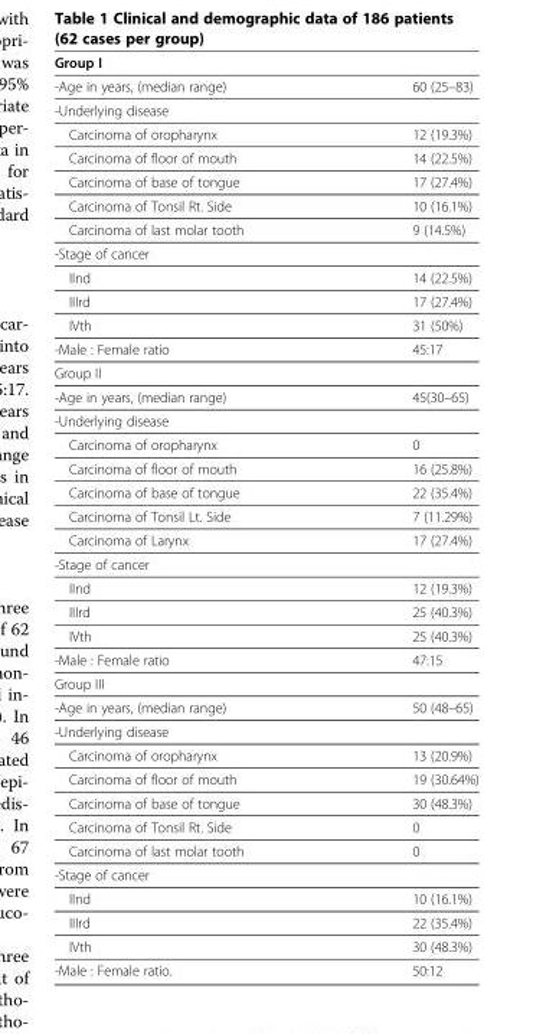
<table><thead><tr><td>Group I</td><td></td></tr></thead><tbody><tr><td>-Age in years, (median range)</td><td>60 (25–83)</td></tr><tr><td colspan="2">-Underlying disease</td></tr><tr><td>Carcinoma of oropharynx</td><td>12 (19.3%)</td></tr><tr><td>Carcinoma of floor of mouth</td><td>14 (22.5%)</td></tr><tr><td>Carcinoma of base of tongue</td><td>17 (27.4%)</td></tr><tr><td>Carcinoma of Tonsil Rt. Side</td><td>10 (16.1%)</td></tr><tr><td>Carcinoma of last molar tooth</td><td>9 (14.5%)</td></tr><tr><td colspan="2">-Stage of cancer</td></tr><tr><td>IInd</td><td>14 (22.5%)</td></tr><tr><td>IIIrd</td><td>17 (27.4%)</td></tr><tr><td>IVth</td><td>31 (50%)</td></tr><tr><td>-Male : Female ratio</td><td>45:17</td></tr><tr><td colspan="2">Group II</td></tr><tr><td>-Age in years, (median range)</td><td>45(30–65)</td></tr><tr><td colspan="2">-Underlying disease</td></tr><tr><td>Carcinoma of oropharynx</td><td>0</td></tr><tr><td>Carcinoma of floor of mouth</td><td>16 (25.8%)</td></tr><tr><td>Carcinoma of base of tongue</td><td>22 (35.4%)</td></tr><tr><td>Carcinoma of Tonsil Lt. Side</td><td>7 (11.29%)</td></tr><tr><td>Carcinoma of Larynx</td><td>17 (27.4%)</td></tr><tr><td colspan="2">-Stage of cancer</td></tr><tr><td>IInd</td><td>12 (19.3%)</td></tr><tr><td>IIIrd</td><td>25 (40.3%)</td></tr><tr><td>IVth</td><td>25 (40.3%)</td></tr><tr><td>-Male : Female ratio</td><td>47:15</td></tr><tr><td colspan="2">Group III</td></tr><tr><td>-Age in years, (median range)</td><td>50 (48–65)</td></tr><tr><td colspan="2">-Underlying disease</td></tr><tr><td>Carcinoma of oropharynx</td><td>13 (20.9%)</td></tr><tr><td>Carcinoma of floor of mouth</td><td>19 (30.64%)</td></tr><tr><td>Carcinoma of base of tongue</td><td>30 (48.3%)</td></tr><tr><td>Carcinoma of Tonsil Rt. Side</td><td>0</td></tr><tr><td>Carcinoma of last molar tooth</td><td>0</td></tr><tr><td colspan="2">-Stage of cancer</td></tr><tr><td>IInd</td><td>10 (16.1%)</td></tr><tr><td>IIIrd</td><td>22 (35.4%)</td></tr><tr><td>IVth</td><td>30 (48.3%)</td></tr><tr><td>-Male : Female ratio.</td><td>50:12</td></tr></tbody></table>